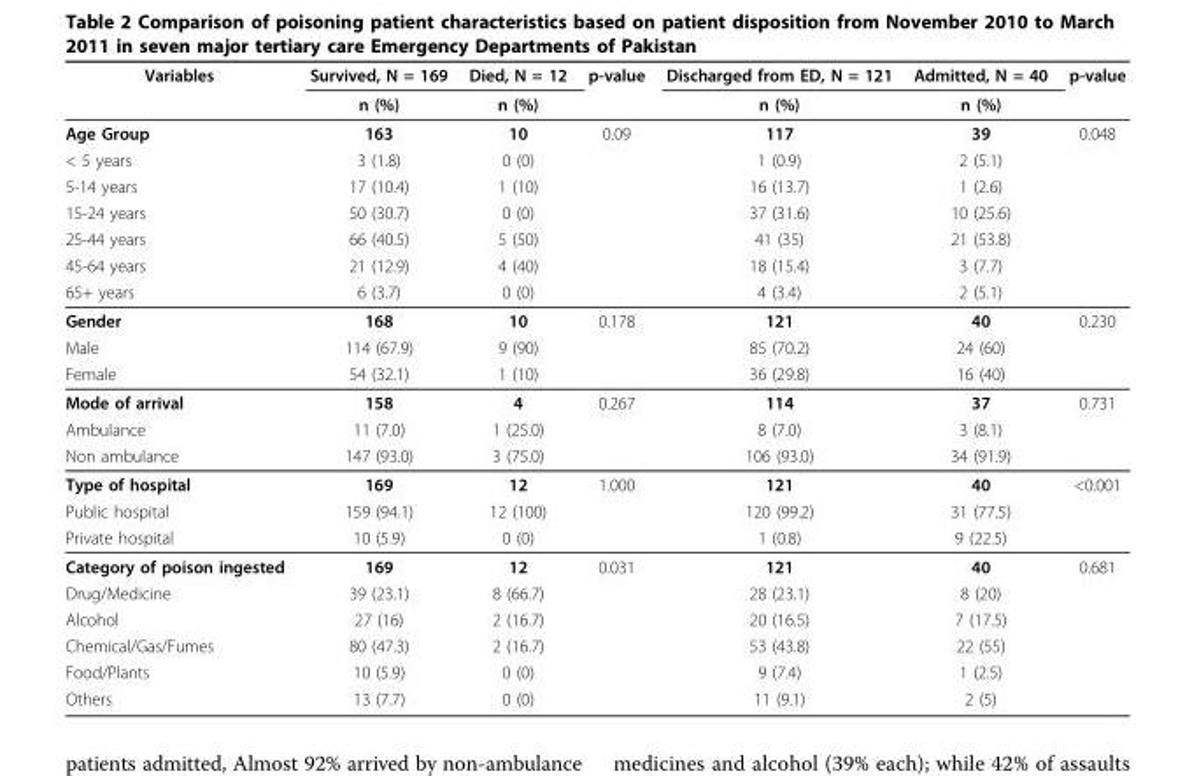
<table><thead><tr><td rowspan="2">Variables</td><td rowspan="2">Survived, N = 169 n (%)</td><td rowspan="2">Died, N = 12 n (%)</td><td rowspan="2">p-value</td><td rowspan="2">Discharged from ED, N = 121 n (%)</td><td rowspan="2">Admitted, N = 40 n (%)</td><td rowspan="2">p-value</td></tr><tr></tr></thead><tbody><tr><td>Age Group</td><td>163</td><td>10</td><td>0.09</td><td>117</td><td>39</td><td>0.048</td></tr><tr><td>&lt; 5 years</td><td>3 (1.8)</td><td>0 (0)</td><td></td><td>1 (0.9)</td><td>2 (5.1)</td><td></td></tr><tr><td>5-14 years</td><td>17 (10.4)</td><td>1 (10)</td><td></td><td>16 (13.7)</td><td>1 (2.6)</td><td></td></tr><tr><td>15-24 years</td><td>50 (30.7)</td><td>0 (0)</td><td></td><td>37 (31.6)</td><td>10 (25.6)</td><td></td></tr><tr><td>25-44 years</td><td>66 (40.5)</td><td>5 (50)</td><td></td><td>41 (35)</td><td>21 (53.8)</td><td></td></tr><tr><td>45-64 years</td><td>21 (12.9)</td><td>4 (40)</td><td></td><td>18 (15.4)</td><td>3 (7.7)</td><td></td></tr><tr><td>65+ years</td><td>6 (3.7)</td><td>0 (0)</td><td></td><td>4 (3.4)</td><td>2 (5.1)</td><td></td></tr><tr><td>Gender</td><td>168</td><td>10</td><td>0.178</td><td>121</td><td>40</td><td>0.230</td></tr><tr><td>Male</td><td>114 (67.9)</td><td>9 (90)</td><td></td><td>85 (70.2)</td><td>24 (60)</td><td></td></tr><tr><td>Female</td><td>54 (32.1)</td><td>1 (10)</td><td></td><td>36 (29.8)</td><td>16 (40)</td><td></td></tr><tr><td>Mode of arrival</td><td>158</td><td>4</td><td>0.267</td><td>114</td><td>37</td><td>0.731</td></tr><tr><td>Ambulance</td><td>11 (7.0)</td><td>1 (25.0)</td><td></td><td>8 (7.0)</td><td>3 (8.1)</td><td></td></tr><tr><td>Non ambulance</td><td>147 (93.0)</td><td>3 (75.0)</td><td></td><td>106 (93.0)</td><td>34 (91.9)</td><td></td></tr><tr><td>Type of hospital</td><td>169</td><td>12</td><td>1.000</td><td>121</td><td>40</td><td>&lt;0.001</td></tr><tr><td>Public hospital</td><td>159 (94.1)</td><td>12 (100)</td><td></td><td>120 (99.2)</td><td>31 (77.5)</td><td></td></tr><tr><td>Private hospital</td><td>10 (5.9)</td><td>0 (0)</td><td></td><td>1 (0.8)</td><td>9 (22.5)</td><td></td></tr><tr><td>Category of poison ingested</td><td>169</td><td>12</td><td>0.031</td><td>121</td><td>40</td><td>0.681</td></tr><tr><td>Drug/Medicine</td><td>39 (23.1)</td><td>8 (66.7)</td><td></td><td>28 (23.1)</td><td>8 (20)</td><td></td></tr><tr><td>Alcohol</td><td>27 (16)</td><td>2 (16.7)</td><td></td><td>20 (16.5)</td><td>7 (17.5)</td><td></td></tr><tr><td>Chemical/Gas/Fumes</td><td>80 (47.3)</td><td>2 (16.7)</td><td></td><td>53 (43.8)</td><td>22 (55)</td><td></td></tr><tr><td>Food/Plants</td><td>10 (5.9)</td><td>0 (0)</td><td></td><td>9 (7.4)</td><td>1 (2.5)</td><td></td></tr><tr><td>Others</td><td>13 (7.7)</td><td>0 (0)</td><td></td><td>11 (9.1)</td><td>2 (5)</td><td></td></tr></tbody></table>